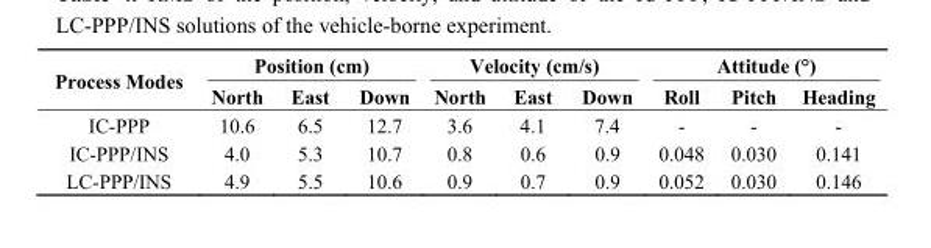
<table><thead><tr><td rowspan="2">Process Modes</td><td colspan="3">Position (cm)</td><td colspan="3">Velocity (cm/s)</td><td colspan="3">Attitude (°)</td></tr><tr><td>North</td><td>East</td><td>Down</td><td>North</td><td>East</td><td>Down</td><td>Roll</td><td>Pitch</td><td>Heading</td></tr></thead><tbody><tr><td>IC-PPP</td><td>10.6</td><td>6.5</td><td>12.7</td><td>3.6</td><td>4.1</td><td>7.4</td><td>-</td><td>-</td><td>-</td></tr><tr><td>IC-PPP/INS</td><td>4.0</td><td>5.3</td><td>10.7</td><td>0.8</td><td>0.6</td><td>0.9</td><td>0.048</td><td>0.030</td><td>0.141</td></tr><tr><td>LC-PPP/INS</td><td>4.9</td><td>5.5</td><td>10.6</td><td>0.9</td><td>0.7</td><td>0.9</td><td>0.052</td><td>0.030</td><td>0.146</td></tr></tbody></table>